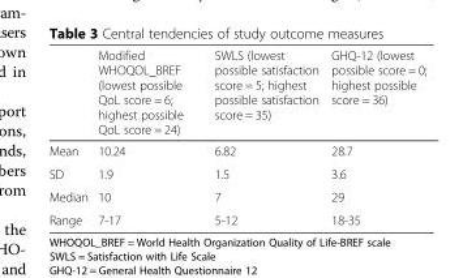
<table><thead><tr><td></td><td>Modified WHOQOL_BREF (lowest possible QoL score = 6; highest possible QoL score = 24)</td><td>SWLS (lowest possible satisfaction score = 5; highest possible satisfaction score = 35)</td><td>GHQ-12 (lowest possible score = 0; highest possible score = 36)</td></tr></thead><tbody><tr><td>Mean</td><td>10.24</td><td>6.82</td><td>28.7</td></tr><tr><td>SD</td><td>1.9</td><td>1.5</td><td>3.6</td></tr><tr><td>Median</td><td>10</td><td>7</td><td>29</td></tr><tr><td>Range</td><td>7-17</td><td>5-12</td><td>18-35</td></tr></tbody></table>